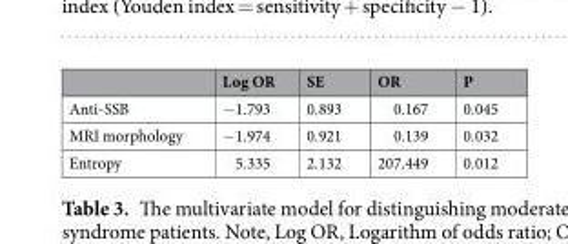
<table><thead><tr><td></td><td>Log OR</td><td>SE</td><td>OR</td><td>P</td></tr></thead><tbody><tr><td>Anti-SSB</td><td>−1.793</td><td>0.893</td><td>0.167</td><td>0.045</td></tr><tr><td>MRI morphology</td><td>−1.974</td><td>0.921</td><td>0.139</td><td>0.032</td></tr><tr><td>Entropy</td><td>5.335</td><td>2.132</td><td>207.449</td><td>0.012</td></tr></tbody></table>